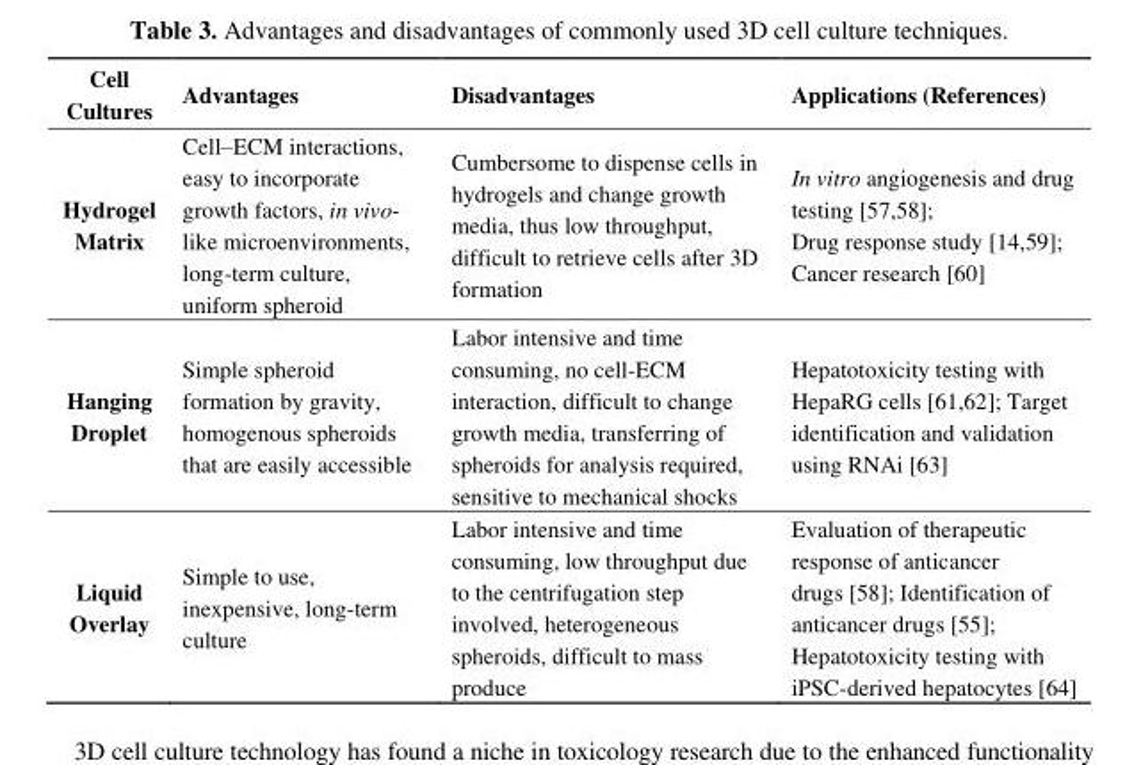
<table><thead><tr><td>Cell Cultures</td><td>Advantages</td><td>Disadvantages</td><td>Applications (References)</td></tr></thead><tbody><tr><td>Hydrogel Matrix</td><td>Cell–ECM interactions, easy to incorporate growth factors, in vivo- like microenvironments, long-term culture, uniform spheroid</td><td>Cumbersome to dispense cells in hydrogels and change growth media, thus low throughput, difficult to retrieve cells after 3D formation</td><td>In vitro angiogenesis and drug testing [57,58]; Drug response study [14,59]; Cancer research [60]</td></tr><tr><td>Hanging Droplet</td><td>Simple spheroid formation by gravity, homogenous spheroids that are easily accessible</td><td>Labor intensive and time consuming, no cell-ECM interaction, difficult to change growth media, transferring of spheroids for analysis required, sensitive to mechanical shocks</td><td>Hepatotoxicity testing with HepaRG cells [61,62]; Target identification and validation using RNAi [63]</td></tr><tr><td>Liquid Overlay</td><td>Simple to use, inexpensive, long-term culture</td><td>Labor intensive and time consuming, low throughput due to the centrifugation step involved, heterogeneous spheroids, difficult to mass produce</td><td>Evaluation of therapeutic response of anticancer drugs [58]; Identification of anticancer drugs [55]; Hepatotoxicity testing with iPSC-derived hepatocytes [64]</td></tr></tbody></table>